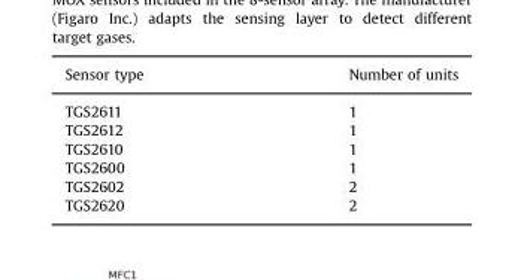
<table><thead><tr><td>Sensor type</td><td>Number of units</td></tr></thead><tbody><tr><td>TGS2611</td><td>1</td></tr><tr><td>TGS2612</td><td>1</td></tr><tr><td>TGS2610</td><td>1</td></tr><tr><td>TGS2600</td><td>1</td></tr><tr><td>TGS2602</td><td>2</td></tr><tr><td>TGS2620</td><td>2</td></tr></tbody></table>